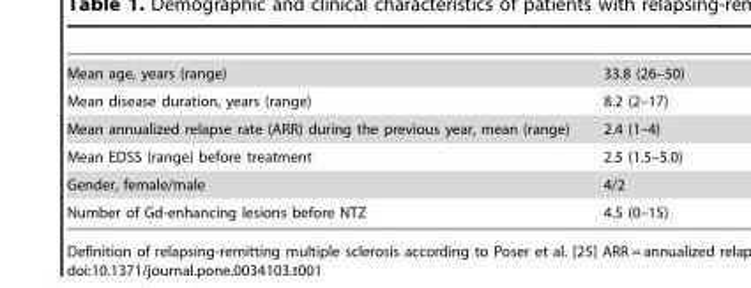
<table><tbody><tr><td>Mean age, years (range)</td><td>33.8 (26–50)</td></tr><tr><td>Mean disease duration, years (range)</td><td>8.2 (2–17)</td></tr><tr><td>Mean annualized relapse rate (ARR) during the previous year, mean (range)</td><td>2.4 (1–4)</td></tr><tr><td>Mean EDSS (range) before treatment</td><td>2.5 (1.5–5.0)</td></tr><tr><td>Gender, female/male</td><td>4/2</td></tr><tr><td>Number of Gd-enhancing lesions before NTZ</td><td>4.5 (0–15)</td></tr></tbody></table>